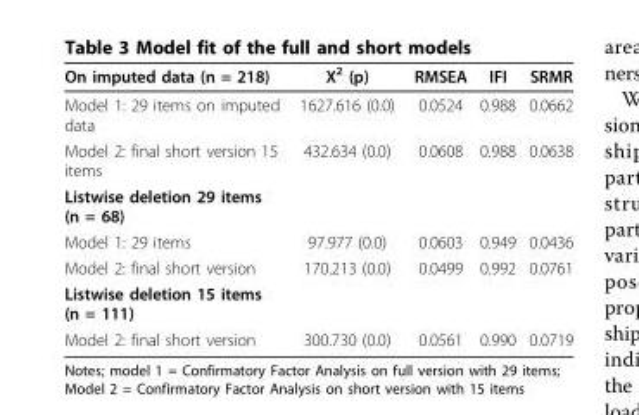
<table><thead><tr><td>On imputed data (n = 218)</td><td>Χ<sup>2</sup> (p)</td><td>RMSEA</td><td>IFI</td><td>SRMR</td></tr></thead><tbody><tr><td>Model 1: 29 items on imputed data</td><td>1627.616 (0.0)</td><td>0.0524</td><td>0.988</td><td>0.0662</td></tr><tr><td>Model 2: final short version 15 items</td><td>432.634 (0.0)</td><td>0.0608</td><td>0.988</td><td>0.0638</td></tr><tr><td colspan="5">Listwise deletion 29 items (n = 68)</td></tr><tr><td>Model 1: 29 items</td><td>97.977 (0.0)</td><td>0.0603</td><td>0.949</td><td>0.0436</td></tr><tr><td>Model 2: final short version</td><td>170.213 (0.0)</td><td>0.0499</td><td>0.992</td><td>0.0761</td></tr><tr><td colspan="5">Listwise deletion 15 items (n = 111)</td></tr><tr><td>Model 2: final short version</td><td>300.730 (0.0)</td><td>0.0561</td><td>0.990</td><td>0.0719</td></tr></tbody></table>